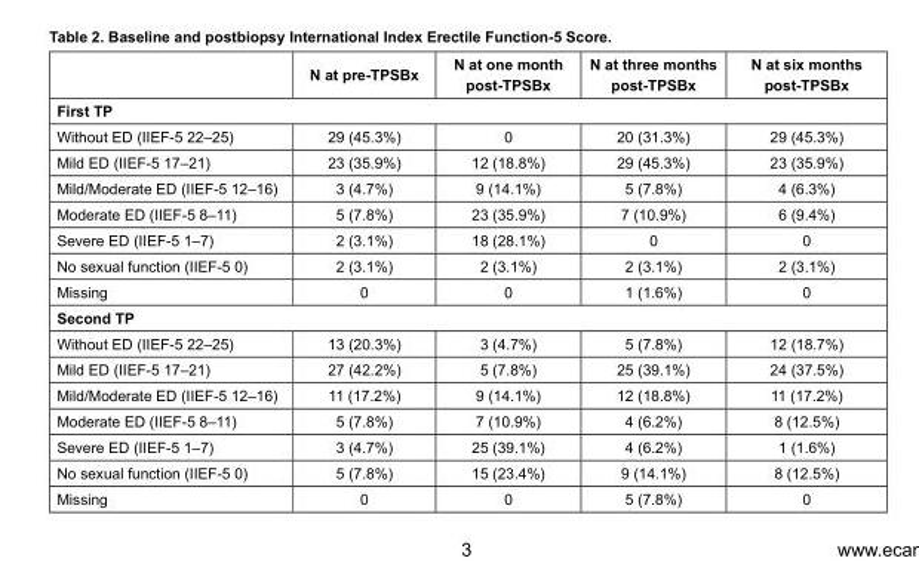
<table><thead><tr><td></td><td>N at pre-TPSBx</td><td>N at one month post-TPSBx</td><td>N at three months post-TPSBx</td><td>N at six months post-TPSBx</td></tr></thead><tbody><tr><td colspan="5">First TP</td></tr><tr><td>Without ED (IIEF-5 22–25)</td><td>29 (45.3%)</td><td>0</td><td>20 (31.3%)</td><td>29 (45.3%)</td></tr><tr><td>Mild ED (IIEF-5 17–21)</td><td>23 (35.9%)</td><td>12 (18.8%)</td><td>29 (45.3%)</td><td>23 (35.9%)</td></tr><tr><td>Mild/Moderate ED (IIEF-5 12–16)</td><td>3 (4.7%)</td><td>9 (14.1%)</td><td>5 (7.8%)</td><td>4 (6.3%)</td></tr><tr><td>Moderate ED (IIEF-5 8–11)</td><td>5 (7.8%)</td><td>23 (35.9%)</td><td>7 (10.9%)</td><td>6 (9.4%)</td></tr><tr><td>Severe ED (IIEF-5 1–7)</td><td>2 (3.1%)</td><td>18 (28.1%)</td><td>0</td><td>0</td></tr><tr><td>No sexual function (IIEF-5 0)</td><td>2 (3.1%)</td><td>2 (3.1%)</td><td>2 (3.1%)</td><td>2 (3.1%)</td></tr><tr><td>Missing</td><td>0</td><td>0</td><td>1 (1.6%)</td><td>0</td></tr><tr><td colspan="5">Second TP</td></tr><tr><td>Without ED (IIEF-5 22–25)</td><td>13 (20.3%)</td><td>3 (4.7%)</td><td>5 (7.8%)</td><td>12 (18.7%)</td></tr><tr><td>Mild ED (IIEF-5 17–21)</td><td>27 (42.2%)</td><td>5 (7.8%)</td><td>25 (39.1%)</td><td>24 (37.5%)</td></tr><tr><td>Mild/Moderate ED (IIEF-5 12–16)</td><td>11 (17.2%)</td><td>9 (14.1%)</td><td>12 (18.8%)</td><td>11 (17.2%)</td></tr><tr><td>Moderate ED (IIEF-5 8–11)</td><td>5 (7.8%)</td><td>7 (10.9%)</td><td>4 (6.2%)</td><td>8 (12.5%)</td></tr><tr><td>Severe ED (IIEF-5 1–7)</td><td>3 (4.7%)</td><td>25 (39.1%)</td><td>4 (6.2%)</td><td>1 (1.6%)</td></tr><tr><td>No sexual function (IIEF-5 0)</td><td>5 (7.8%)</td><td>15 (23.4%)</td><td>9 (14.1%)</td><td>8 (12.5%)</td></tr><tr><td>Missing</td><td>0</td><td>0</td><td>5 (7.8%)</td><td>0</td></tr></tbody></table>